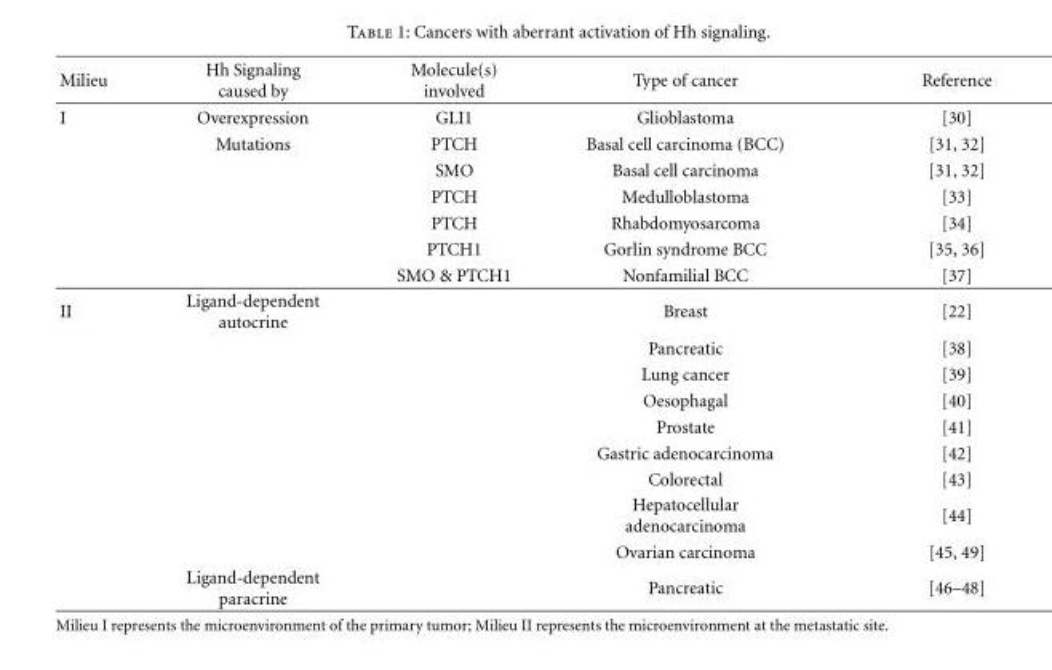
<table><thead><tr><td>Milieu</td><td>Hh Signaling caused by</td><td>Molecule(s) involved</td><td>Type of cancer</td><td>Reference</td></tr></thead><tbody><tr><td rowspan="7">I</td><td>Overexpression</td><td>GLI1</td><td>Glioblastoma</td><td>[30]</td></tr><tr><td>Mutations</td><td>PTCH</td><td>Basal cell carcinoma (BCC)</td><td>[31, 32]</td></tr><tr><td></td><td>SMO</td><td>Basal cell carcinoma</td><td>[31, 32]</td></tr><tr><td></td><td>PTCH</td><td>Medulloblastoma</td><td>[33]</td></tr><tr><td></td><td>PTCH</td><td>Rhabdomyosarcoma</td><td>[34]</td></tr><tr><td></td><td>PTCH1</td><td>Gorlin syndrome BCC</td><td>[35, 36]</td></tr><tr><td></td><td>SMO &amp; PTCH1</td><td>Nonfamilial BCC</td><td>[37]</td></tr><tr><td rowspan="10">II</td><td>Ligand-dependent autocrine</td><td></td><td>Breast</td><td>[22]</td></tr><tr><td></td><td></td><td>Pancreatic</td><td>[38]</td></tr><tr><td></td><td></td><td>Lung cancer</td><td>[39]</td></tr><tr><td></td><td></td><td>Oesophagal</td><td>[40]</td></tr><tr><td></td><td></td><td>Prostate</td><td>[41]</td></tr><tr><td></td><td></td><td>Gastric adenocarcinoma</td><td>[42]</td></tr><tr><td></td><td></td><td>Colorectal</td><td>[43]</td></tr><tr><td></td><td></td><td>Hepatocellular adenocarcinoma</td><td>[44]</td></tr><tr><td></td><td></td><td>Ovarian carcinoma</td><td>[45, 49]</td></tr><tr><td>Ligand-dependent paracrine</td><td></td><td>Pancreatic</td><td>[46–48]</td></tr></tbody></table>